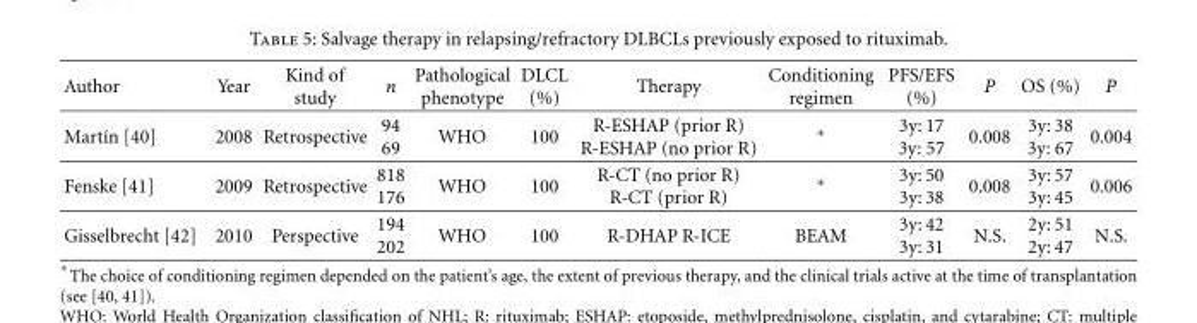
<table><thead><tr><td>Author</td><td>Year</td><td>Kind of study</td><td>n</td><td>Pathological phenotype</td><td>DLCL (%)</td><td>Therapy</td><td>Conditioning regimen</td><td>PFS/EFS (%)</td><td>P</td><td>OS (%)</td><td>P</td></tr></thead><tbody><tr><td>Mart´ın [40]</td><td>2008</td><td>Retrospective</td><td>94 69</td><td>WHO</td><td>100</td><td>R-ESHAP (prior R) R-ESHAP (no prior R)</td><td>∗</td><td>3y: 17 3y: 57</td><td>0.008</td><td>3y: 38 3y: 67</td><td>0.004</td></tr><tr><td>Fenske [41]</td><td>2009</td><td>Retrospective</td><td>818 176</td><td>WHO</td><td>100</td><td>R-CT (no prior R) R-CT (prior R)</td><td>∗</td><td>3y: 50 3y: 38</td><td>0.008</td><td>3y: 57 3y: 45</td><td>0.006</td></tr><tr><td>Gisselbrecht [42]</td><td>2010</td><td>Perspective</td><td>194 202</td><td>WHO</td><td>100</td><td>R-DHAP R-ICE</td><td>BEAM</td><td>3y: 42 3y: 31</td><td>N.S.</td><td>2y: 51 2y: 47</td><td>N.S.</td></tr></tbody></table>